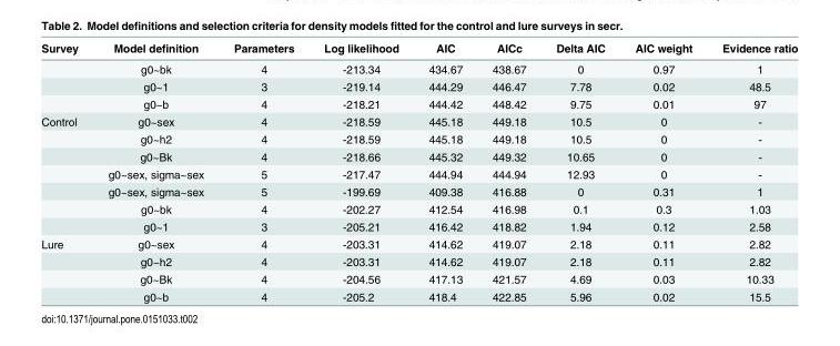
<table><thead><tr><td>Survey</td><td>Model definition</td><td>Parameters</td><td>Log likelihood</td><td>AIC</td><td>AICc</td><td>Delta AIC</td><td>AIC weight</td><td>Evidence ratio</td></tr></thead><tbody><tr><td></td><td>g0~bk</td><td>4</td><td>-213.34</td><td>434.67</td><td>438.67</td><td>0</td><td>0.97</td><td>1</td></tr><tr><td></td><td>g0~1</td><td>3</td><td>-219.14</td><td>444.29</td><td>446.47</td><td>7.78</td><td>0.02</td><td>48.5</td></tr><tr><td></td><td>g0~b</td><td>4</td><td>-218.21</td><td>444.42</td><td>448.42</td><td>9.75</td><td>0.01</td><td>97</td></tr><tr><td rowspan="7">Control</td><td>g0~sex</td><td>4</td><td>-218.59</td><td>445.18</td><td>449.18</td><td>10.5</td><td>0</td><td>-</td></tr><tr><td>g0~h2</td><td>4</td><td>-218.59</td><td>445.18</td><td>449.18</td><td>10.5</td><td>0</td><td>-</td></tr><tr><td>g0~Bk</td><td>4</td><td>-218.66</td><td>445.32</td><td>449.32</td><td>10.65</td><td>0</td><td>-</td></tr><tr><td>g0~sex, sigma~sex</td><td>5</td><td>-217.47</td><td>444.94</td><td>444.94</td><td>12.93</td><td>0</td><td>-</td></tr><tr><td>g0~sex, sigma~sex</td><td>5</td><td>-199.69</td><td>409.38</td><td>416.88</td><td>0</td><td>0.31</td><td>1</td></tr><tr><td>g0~bk</td><td>4</td><td>-202.27</td><td>412.54</td><td>416.98</td><td>0.1</td><td>0.3</td><td>1.03</td></tr><tr><td>g0~1</td><td>3</td><td>-205.21</td><td>416.42</td><td>418.82</td><td>1.94</td><td>0.12</td><td>2.58</td></tr><tr><td rowspan="4">Lure</td><td>g0~sex</td><td>4</td><td>-203.31</td><td>414.62</td><td>419.07</td><td>2.18</td><td>0.11</td><td>2.82</td></tr><tr><td>g0~h2</td><td>4</td><td>-203.31</td><td>414.62</td><td>419.07</td><td>2.18</td><td>0.11</td><td>2.82</td></tr><tr><td>g0~Bk</td><td>4</td><td>-204.56</td><td>417.13</td><td>421.57</td><td>4.69</td><td>0.03</td><td>10.33</td></tr><tr><td>g0~b</td><td>4</td><td>-205.2</td><td>418.4</td><td>422.85</td><td>5.96</td><td>0.02</td><td>15.5</td></tr></tbody></table>